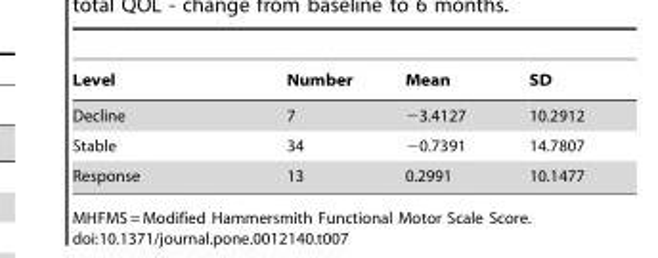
<table><thead><tr><td>Level</td><td>Number</td><td>Mean</td><td>SD</td></tr></thead><tbody><tr><td>Decline</td><td>7</td><td>−3.4127</td><td>10.2912</td></tr><tr><td>Stable</td><td>34</td><td>−0.7391</td><td>14.7807</td></tr><tr><td>Response</td><td>13</td><td>0.2991</td><td>10.1477</td></tr></tbody></table>